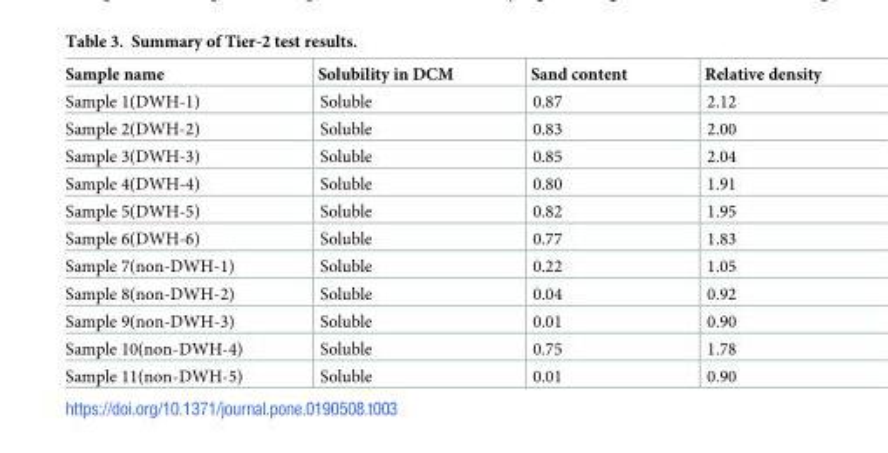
<table><thead><tr><td>Sample name</td><td>Solubility in DCM</td><td>Sand content</td><td>Relative density</td></tr></thead><tbody><tr><td>Sample 1(DWH-1)</td><td>Soluble</td><td>0.87</td><td>2.12</td></tr><tr><td>Sample 2(DWH-2)</td><td>Soluble</td><td>0.83</td><td>2.00</td></tr><tr><td>Sample 3(DWH-3)</td><td>Soluble</td><td>0.85</td><td>2.04</td></tr><tr><td>Sample 4(DWH-4)</td><td>Soluble</td><td>0.80</td><td>1.91</td></tr><tr><td>Sample 5(DWH-5)</td><td>Soluble</td><td>0.82</td><td>1.95</td></tr><tr><td>Sample 6(DWH-6)</td><td>Soluble</td><td>0.77</td><td>1.83</td></tr><tr><td>Sample 7(non-DWH-1)</td><td>Soluble</td><td>0.22</td><td>1.05</td></tr><tr><td>Sample 8(non-DWH-2)</td><td>Soluble</td><td>0.04</td><td>0.92</td></tr><tr><td>Sample 9(non-DWH-3)</td><td>Soluble</td><td>0.01</td><td>0.90</td></tr><tr><td>Sample 10(non-DWH-4)</td><td>Soluble</td><td>0.75</td><td>1.78</td></tr><tr><td>Sample 11(non-DWH-5)</td><td>Soluble</td><td>0.01</td><td>0.90</td></tr></tbody></table>